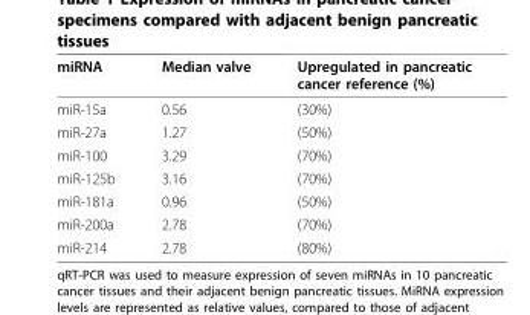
<table><thead><tr><td>miRNA</td><td>Median valve</td><td>Upregulated in pancreatic cancer reference (%)</td></tr></thead><tbody><tr><td>miR-15a</td><td>0.56</td><td>(30%)</td></tr><tr><td>miR-27a</td><td>1.27</td><td>(50%)</td></tr><tr><td>miR-100</td><td>3.29</td><td>(70%)</td></tr><tr><td>miR-125b</td><td>3.16</td><td>(70%)</td></tr><tr><td>miR-181a</td><td>0.96</td><td>(50%)</td></tr><tr><td>miR-200a</td><td>2.78</td><td>(70%)</td></tr><tr><td>miR-214</td><td>2.78</td><td>(80%)</td></tr></tbody></table>